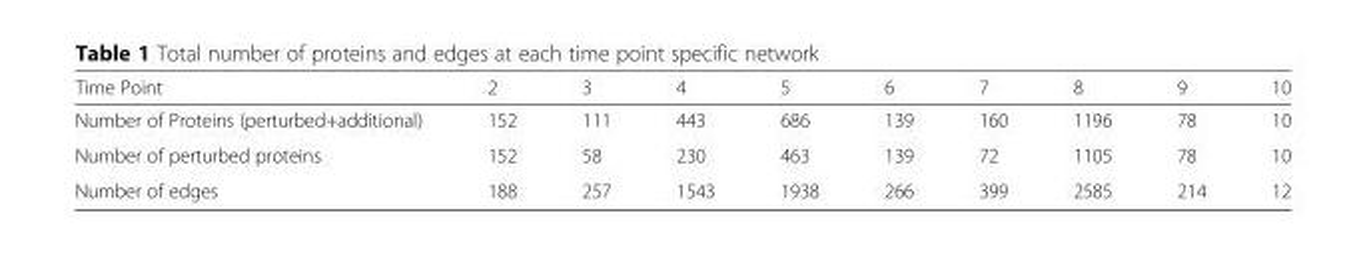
<table><thead><tr><td>Time Point</td><td>2</td><td>3</td><td>4</td><td>5</td><td>6</td><td>7</td><td>8</td><td>9</td><td>10</td></tr></thead><tbody><tr><td>Number of Proteins (perturbed+additional)</td><td>152</td><td>111</td><td>443</td><td>686</td><td>139</td><td>160</td><td>1196</td><td>78</td><td>10</td></tr><tr><td>Number of perturbed proteins</td><td>152</td><td>58</td><td>230</td><td>463</td><td>139</td><td>72</td><td>1105</td><td>78</td><td>10</td></tr><tr><td>Number of edges</td><td>188</td><td>257</td><td>1543</td><td>1938</td><td>266</td><td>399</td><td>2585</td><td>214</td><td>12</td></tr></tbody></table>